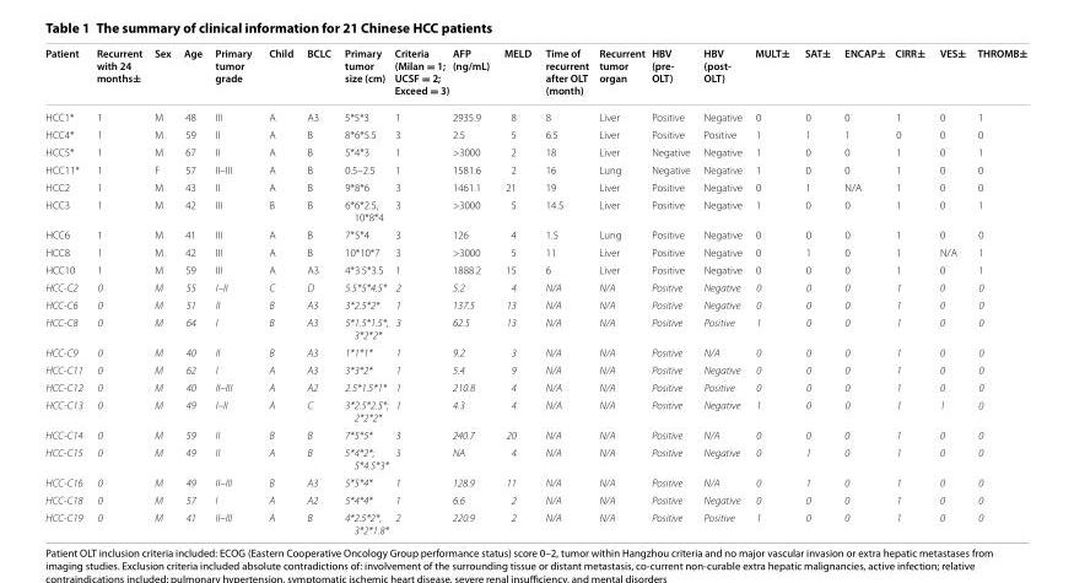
<table><thead><tr><td>Patient</td><td>Recurrent with 24 months±</td><td>Sex</td><td>Age</td><td>Primary tumor grade</td><td>Child</td><td>BCLC</td><td>Primary tumor size (cm)</td><td>Criteria (Milan = 1; UCSF = 2; Exceed = 3)</td><td>AFP (ng/mL)</td><td>MELD</td><td>Time of recurrent after OLT (month)</td><td>Recurrent tumor organ</td><td>HBV (pre- OLT)</td><td>HBV (post- OLT)</td><td>MULT±</td><td>SAT±</td><td>ENCAP±</td><td>CIRR±</td><td>VES±</td><td>THROMB±</td></tr></thead><tbody><tr><td>HCC1*</td><td>1</td><td>M</td><td>48</td><td>III</td><td>A</td><td>A3</td><td>5*5*3</td><td>1</td><td>2935.9</td><td>8</td><td>8</td><td>Liver</td><td>Positive</td><td>Negative</td><td>0</td><td>0</td><td>0</td><td>1</td><td>0</td><td>1</td></tr><tr><td>HCC4*</td><td>1</td><td>M</td><td>59</td><td>II</td><td>A</td><td>B</td><td>8*6*5.5</td><td>3</td><td>2.5</td><td>5</td><td>6.5</td><td>Liver</td><td>Positive</td><td>Positive</td><td>1</td><td>1</td><td>1</td><td>0</td><td>0</td><td>0</td></tr><tr><td>HCC5*</td><td>1</td><td>M</td><td>67</td><td>II</td><td>A</td><td>B</td><td>5*4*3</td><td>1</td><td>&gt;3000</td><td>2</td><td>18</td><td>Liver</td><td>Negative</td><td>Negative</td><td>1</td><td>0</td><td>0</td><td>1</td><td>0</td><td>1</td></tr><tr><td>HCC11*</td><td>1</td><td>F</td><td>57</td><td>II–III</td><td>A</td><td>B</td><td>0.5–2.5</td><td>1</td><td>1581.6</td><td>2</td><td>16</td><td>Lung</td><td>Negative</td><td>Negative</td><td>1</td><td>0</td><td>0</td><td>1</td><td>0</td><td>0</td></tr><tr><td>HCC2</td><td>1</td><td>M</td><td>43</td><td>II</td><td>A</td><td>B</td><td>9*8*6</td><td>3</td><td>1461.1</td><td>21</td><td>19</td><td>Liver</td><td>Positive</td><td>Negative</td><td>0</td><td>1</td><td>N/A</td><td>1</td><td>0</td><td>0</td></tr><tr><td>HCC3</td><td>1</td><td>M</td><td>42</td><td>III</td><td>B</td><td>B</td><td>6*6*2.5, 10*8*4</td><td>3</td><td>&gt;3000</td><td>5</td><td>14.5</td><td>Liver</td><td>Positive</td><td>Negative</td><td>1</td><td>0</td><td>0</td><td>1</td><td>0</td><td>1</td></tr><tr><td>HCC6</td><td>1</td><td>M</td><td>41</td><td>III</td><td>A</td><td>B</td><td>7*5*4</td><td>3</td><td>126</td><td>4</td><td>1.5</td><td>Lung</td><td>Positive</td><td>Negative</td><td>0</td><td>0</td><td>0</td><td>1</td><td>0</td><td>0</td></tr><tr><td>HCC8</td><td>1</td><td>M</td><td>42</td><td>III</td><td>A</td><td>B</td><td>10*10*7</td><td>3</td><td>&gt;3000</td><td>5</td><td>11</td><td>Liver</td><td>Positive</td><td>Negative</td><td>0</td><td>1</td><td>0</td><td>1</td><td>N/A</td><td>1</td></tr><tr><td>HCC10</td><td>1</td><td>M</td><td>59</td><td>III</td><td>A</td><td>A3</td><td>4*3.5*3.5</td><td>1</td><td>1888.2</td><td>15</td><td>6</td><td>Liver</td><td>Positive</td><td>Negative</td><td>0</td><td>0</td><td>0</td><td>1</td><td>0</td><td>1</td></tr><tr><td>HCC-C2</td><td>0</td><td>M</td><td>55</td><td>I–II</td><td>C</td><td>D</td><td>5.5*5*4.5*</td><td>2</td><td>5.2</td><td>4</td><td>N/A</td><td>N/A</td><td>Positive</td><td>Negative</td><td>0</td><td>0</td><td>0</td><td>1</td><td>0</td><td>0</td></tr><tr><td>HCC-C6</td><td>0</td><td>M</td><td>51</td><td>II</td><td>B</td><td>A3</td><td>3*2.5*2*</td><td>1</td><td>137.5</td><td>13</td><td>N/A</td><td>N/A</td><td>Positive</td><td>Negative</td><td>0</td><td>0</td><td>0</td><td>1</td><td>0</td><td>0</td></tr><tr><td>HCC-C8</td><td>0</td><td>M</td><td>64</td><td>I</td><td>B</td><td>A3</td><td>5*1.5*1.5*, 3*2*2*</td><td>3</td><td>62.5</td><td>13</td><td>N/A</td><td>N/A</td><td>Positive</td><td>Positive</td><td>1</td><td>0</td><td>0</td><td>1</td><td>0</td><td>0</td></tr><tr><td>HCC-C9</td><td>0</td><td>M</td><td>40</td><td>II</td><td>B</td><td>A3</td><td>1*1*1*</td><td>1</td><td>9.2</td><td>3</td><td>N/A</td><td>N/A</td><td>Positive</td><td>N/A</td><td>0</td><td>0</td><td>0</td><td>1</td><td>0</td><td>0</td></tr><tr><td>HCC-C11</td><td>0</td><td>M</td><td>62</td><td>I</td><td>A</td><td>A3</td><td>3*3*2*</td><td>1</td><td>5.4</td><td>9</td><td>N/A</td><td>N/A</td><td>Positive</td><td>Negative</td><td>0</td><td>0</td><td>0</td><td>1</td><td>0</td><td>0</td></tr><tr><td>HCC-C12</td><td>0</td><td>M</td><td>40</td><td>II–III</td><td>A</td><td>A2</td><td>2.5*1.5*1*</td><td>1</td><td>210.8</td><td>4</td><td>N/A</td><td>N/A</td><td>Positive</td><td>Positive</td><td>0</td><td>0</td><td>0</td><td>1</td><td>0</td><td>0</td></tr><tr><td>HCC-C13</td><td>0</td><td>M</td><td>49</td><td>I–II</td><td>A</td><td>C</td><td>3*2.5*2.5*; 2*2*2*</td><td>1</td><td>4.3</td><td>4</td><td>N/A</td><td>N/A</td><td>Positive</td><td>Negative</td><td>1</td><td>0</td><td>0</td><td>1</td><td>1</td><td>0</td></tr><tr><td>HCC-C14</td><td>0</td><td>M</td><td>59</td><td>II</td><td>B</td><td>B</td><td>7*5*5*</td><td>3</td><td>240.7</td><td>20</td><td>N/A</td><td>N/A</td><td>Positive</td><td>N/A</td><td>0</td><td>0</td><td>0</td><td>1</td><td>0</td><td>0</td></tr><tr><td>HCC-C15</td><td>0</td><td>M</td><td>49</td><td>II</td><td>A</td><td>B</td><td>5*4*2*; 5*4.5*3*</td><td>3</td><td>NA</td><td>4</td><td>N/A</td><td>N/A</td><td>Positive</td><td>Negative</td><td>0</td><td>1</td><td>0</td><td>1</td><td>0</td><td>0</td></tr><tr><td>HCC-C16</td><td>0</td><td>M</td><td>49</td><td>II–III</td><td>B</td><td>A3</td><td>5*5*4*</td><td>1</td><td>128.9</td><td>11</td><td>N/A</td><td>N/A</td><td>Positive</td><td>N/A</td><td>0</td><td>1</td><td>0</td><td>1</td><td>0</td><td>0</td></tr><tr><td>HCC-C18</td><td>0</td><td>M</td><td>57</td><td>I</td><td>A</td><td>A2</td><td>5*4*4*</td><td>1</td><td>6.6</td><td>2</td><td>N/A</td><td>N/A</td><td>Positive</td><td>Negative</td><td>0</td><td>0</td><td>0</td><td>1</td><td>0</td><td>0</td></tr><tr><td>HCC-C19</td><td>0</td><td>M</td><td>41</td><td>II–III</td><td>A</td><td>B</td><td>4*2.5*2*, 3*2*1.8*</td><td>2</td><td>220.9</td><td>2</td><td>N/A</td><td>N/A</td><td>Positive</td><td>Positive</td><td>1</td><td>0</td><td>0</td><td>1</td><td>0</td><td>0</td></tr></tbody></table>